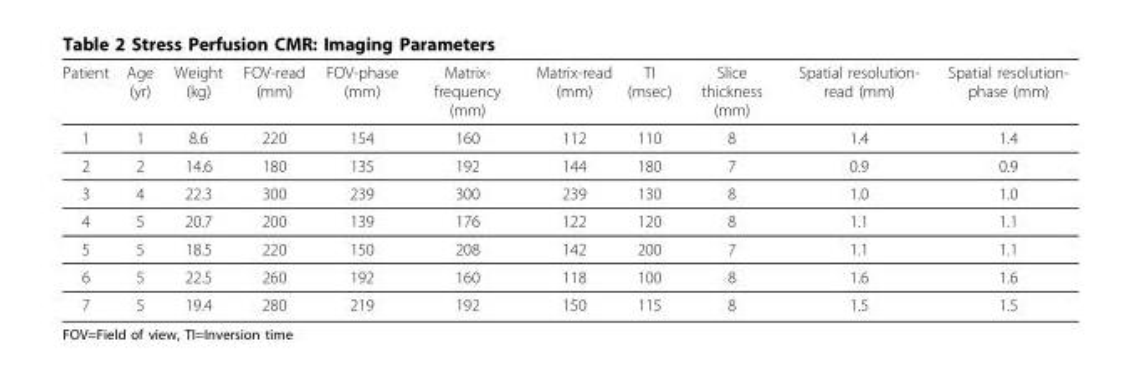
<table><thead><tr><td>Patient</td><td>Age (yr)</td><td>Weight (kg)</td><td>FOV-read (mm)</td><td>FOV-phase (mm)</td><td>Matrix- frequency (mm)</td><td>Matrix-read (mm)</td><td>TI (msec)</td><td>Slice thickness (mm)</td><td>Spatial resolution- read (mm)</td><td>Spatial resolution- phase (mm)</td></tr></thead><tbody><tr><td>1</td><td>1</td><td>8.6</td><td>220</td><td>154</td><td>160</td><td>112</td><td>110</td><td>8</td><td>1.4</td><td>1.4</td></tr><tr><td>2</td><td>2</td><td>14.6</td><td>180</td><td>135</td><td>192</td><td>144</td><td>180</td><td>7</td><td>0.9</td><td>0.9</td></tr><tr><td>3</td><td>4</td><td>22.3</td><td>300</td><td>239</td><td>300</td><td>239</td><td>130</td><td>8</td><td>1.0</td><td>1.0</td></tr><tr><td>4</td><td>5</td><td>20.7</td><td>200</td><td>139</td><td>176</td><td>122</td><td>120</td><td>8</td><td>1.1</td><td>1.1</td></tr><tr><td>5</td><td>5</td><td>18.5</td><td>220</td><td>150</td><td>208</td><td>142</td><td>200</td><td>7</td><td>1.1</td><td>1.1</td></tr><tr><td>6</td><td>5</td><td>22.5</td><td>260</td><td>192</td><td>160</td><td>118</td><td>100</td><td>8</td><td>1.6</td><td>1.6</td></tr><tr><td>7</td><td>5</td><td>19.4</td><td>280</td><td>219</td><td>192</td><td>150</td><td>115</td><td>8</td><td>1.5</td><td>1.5</td></tr></tbody></table>